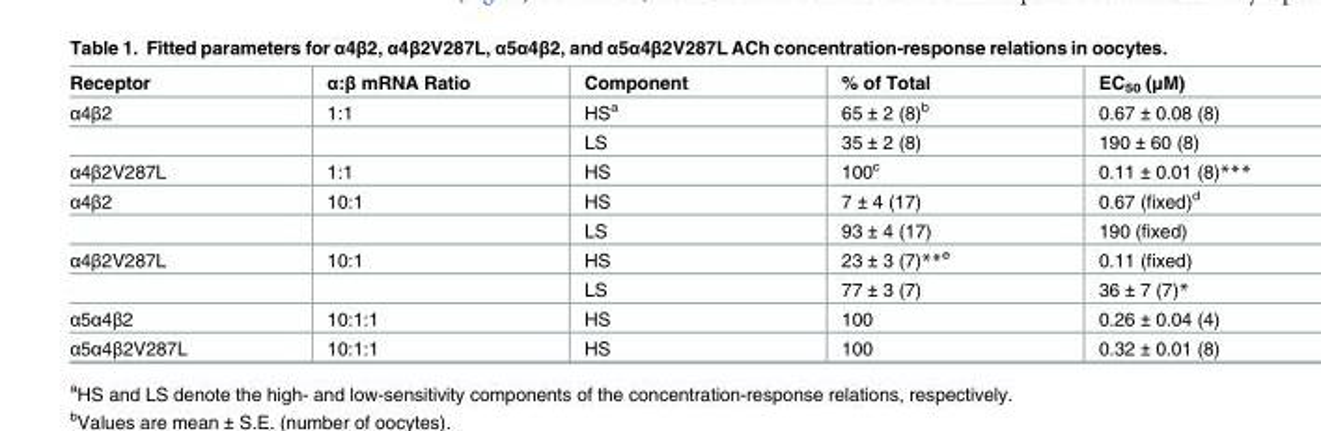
<table><thead><tr><td>Receptor</td><td>α:β mRNA Ratio</td><td>Component</td><td>% of Total</td><td>EC<sub>50</sub> (μM)</td></tr></thead><tbody><tr><td rowspan="2">α4β2</td><td>1:1</td><td>HS<sup>a</sup></td><td>65 ± 2 (8)<sup>b</sup></td><td>0.67 ± 0.08 (8)</td></tr><tr><td></td><td>LS</td><td>35 ± 2 (8)</td><td>190 ± 60 (8)</td></tr><tr><td>α4β2V287L</td><td>1:1</td><td>HS</td><td>100<sup>c</sup></td><td>0.11 ± 0.01 (8)***</td></tr><tr><td rowspan="2">α4β2</td><td>10:1</td><td>HS</td><td>7 ± 4 (17)</td><td>0.67 (fixed)<sup>d</sup></td></tr><tr><td></td><td>LS</td><td>93 ± 4 (17)</td><td>190 (fixed)</td></tr><tr><td rowspan="2">α4β2V287L</td><td>10:1</td><td>HS</td><td>23 ± 3 (7)**<sup>e</sup></td><td>0.11 (fixed)</td></tr><tr><td></td><td>LS</td><td>77 ± 3 (7)</td><td>36 ± 7 (7)*</td></tr><tr><td>α5α4β2</td><td>10:1:1</td><td>HS</td><td>100</td><td>0.26 ± 0.04 (4)</td></tr><tr><td>α5α4β2V287L</td><td>10:1:1</td><td>HS</td><td>100</td><td>0.32 ± 0.01 (8)</td></tr></tbody></table>